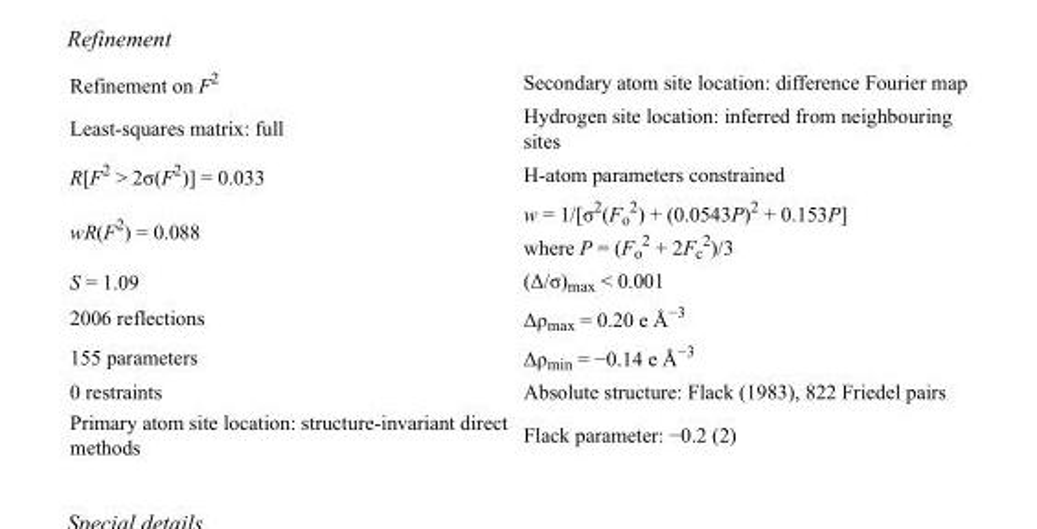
<table><tbody><tr><td>Refinement on F<sup>2</sup></td><td>Secondary atom site location: difference Fourier map</td></tr><tr><td>Least-squares matrix: full</td><td>Hydrogen site location: inferred from neighbouring sites</td></tr><tr><td>R[F<sup>2</sup> &gt; 2σ(F<sup>2</sup>)] = 0.033</td><td>H-atom parameters constrained</td></tr><tr><td>wR(F<sup>2</sup>) = 0.088</td><td>w = 1/[σ<sup>2</sup>(F<sub>o</sub> <sup>2</sup>) + (0.0543P)<sup>2</sup> + 0.153P] where P = (F<sub>o</sub> <sup>2</sup> + 2F<sub>c</sub> <sup>2</sup>)/3</td></tr><tr><td>S = 1.09</td><td>(Δ/σ)<sub>max</sub> &lt; 0.001</td></tr><tr><td>2006 reflections</td><td>Δρ<sub>max</sub> = 0.20 e Å<sup>−3</sup></td></tr><tr><td>155 parameters</td><td>Δρ<sub>min</sub> = −0.14 e Å<sup>−3</sup></td></tr><tr><td>0 restraints</td><td>Absolute structure: Flack (1983), 822 Friedel pairs</td></tr><tr><td>Primary atom site location: structure-invariant direct methods</td><td>Flack parameter: −0.2 (2)</td></tr></tbody></table>